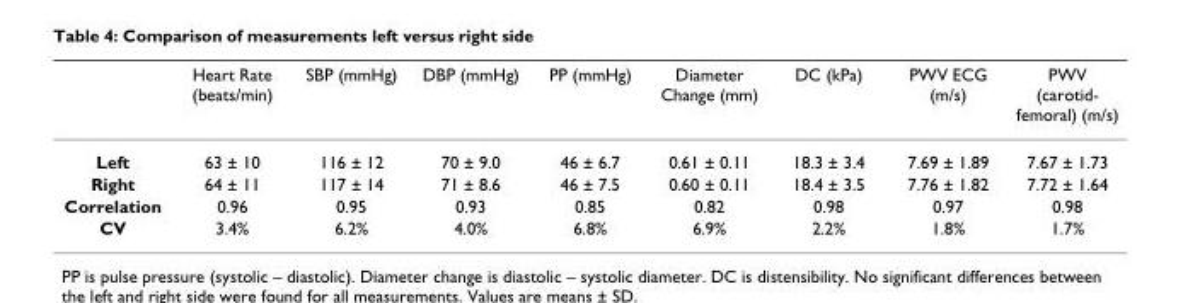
<table><thead><tr><td></td><td>Heart Rate (beats/min)</td><td>SBP (mmHg)</td><td>DBP (mmHg)</td><td>PP (mmHg)</td><td>Diameter Change (mm)</td><td>DC (kPa)</td><td>PWV ECG (m/s)</td><td>PWV (carotid- femoral) (m/s)</td></tr></thead><tbody><tr><td>Left</td><td>63 ± 10</td><td>116 ± 12</td><td>70 ± 9.0</td><td>46 ± 6.7</td><td>0.61 ± 0.11</td><td>18.3 ± 3.4</td><td>7.69 ± 1.89</td><td>7.67 ± 1.73</td></tr><tr><td>Right</td><td>64 ± 11</td><td>117 ± 14</td><td>71 ± 8.6</td><td>46 ± 7.5</td><td>0.60 ± 0.11</td><td>18.4 ± 3.5</td><td>7.76 ± 1.82</td><td>7.72 ± 1.64</td></tr><tr><td>Correlation</td><td>0.96</td><td>0.95</td><td>0.93</td><td>0.85</td><td>0.82</td><td>0.98</td><td>0.97</td><td>0.98</td></tr><tr><td>CV</td><td>3.4%</td><td>6.2%</td><td>4.0%</td><td>6.8%</td><td>6.9%</td><td>2.2%</td><td>1.8%</td><td>1.7%</td></tr></tbody></table>